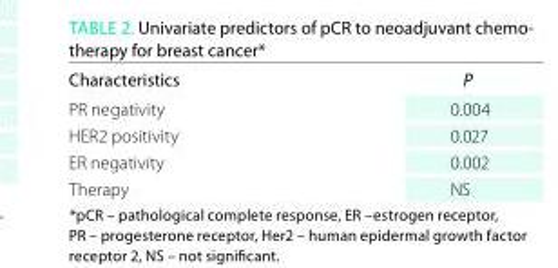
<table><thead><tr><td>Characteristics</td><td>P</td></tr></thead><tbody><tr><td>PR negativity</td><td>0.004</td></tr><tr><td>HER2 positivity</td><td>0.027</td></tr><tr><td>ER negativity</td><td>0.002</td></tr><tr><td>Therapy</td><td>NS</td></tr></tbody></table>